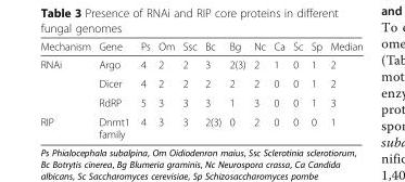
<table><thead><tr><td>Mechanism</td><td>Gene</td><td>Ps</td><td>Om</td><td>Ssc</td><td>Bc</td><td>Bg</td><td>Nc</td><td>Ca</td><td>Sc</td><td>Sp</td><td>Median</td></tr></thead><tbody><tr><td rowspan="3">RNAi</td><td>Argo</td><td>4</td><td>2</td><td>2</td><td>3</td><td>2(3)</td><td>2</td><td>1</td><td>0</td><td>1</td><td>2</td></tr><tr><td>Dicer</td><td>4</td><td>2</td><td>2</td><td>2</td><td>2</td><td>2</td><td>0</td><td>0</td><td>1</td><td>2</td></tr><tr><td>RdRP</td><td>5</td><td>3</td><td>3</td><td>3</td><td>1</td><td>3</td><td>0</td><td>0</td><td>1</td><td>3</td></tr><tr><td>RIP</td><td>Dnmt1 family</td><td>4</td><td>3</td><td>3</td><td>2(3)</td><td>0</td><td>2</td><td>0</td><td>0</td><td>0</td><td>1</td></tr></tbody></table>